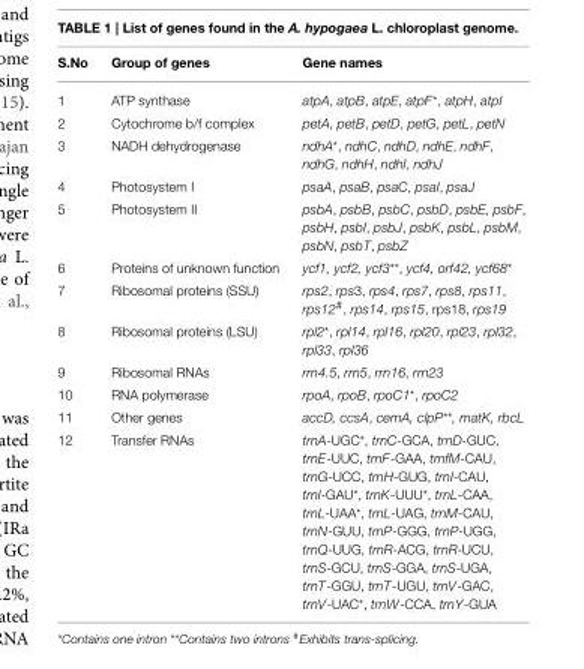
<table><thead><tr><td>S.No</td><td>Group of genes</td><td>Gene names</td></tr></thead><tbody><tr><td>1</td><td>ATP synthase</td><td>atpA, atpB, atpE, atpF*, atpH, atpI</td></tr><tr><td>2</td><td>Cytochrome b/f complex</td><td>petA, petB, petD, petG, petL, petN</td></tr><tr><td>3</td><td>NADH dehydrogenase</td><td>ndhA*, ndhC, ndhD, ndhE, ndhF, ndhG, ndhH, ndhI, ndhJ</td></tr><tr><td>4</td><td>Photosystem I</td><td>psaA, psaB, psaC, psaI, psaJ</td></tr><tr><td>5</td><td>Photosystem II</td><td>psbA, psbB, psbC, psbD, psbE, psbF, psbH, psbI, psbJ, psbK, psbL, psbM, psbN, psbT, psbZ</td></tr><tr><td>6</td><td>Proteins of unknown function</td><td>ycf1, ycf2, ycf3**, ycf4, orf42, ycf68*</td></tr><tr><td>7</td><td>Ribosomal proteins (SSU)</td><td>rps2, rps3, rps4, rps7, rps8, rps11, rps12<sup>#</sup>, rps14, rps15, rps18, rps19</td></tr><tr><td>8</td><td>Ribosomal proteins (LSU)</td><td>rpl2*, rpl14, rpl16, rpl20, rpl23, rpl32, rpl33, rpl36</td></tr><tr><td>9</td><td>Ribosomal RNAs</td><td>rrn4.5, rrn5, rrn16, rrn23</td></tr><tr><td>10</td><td>RNA polymerase</td><td>rpoA, rpoB, rpoC1*, rpoC2</td></tr><tr><td>11</td><td>Other genes</td><td>accD, ccsA, cemA, clpP**, matK, rbcL</td></tr><tr><td>12</td><td>Transfer RNAs</td><td>trnA-UGC*, trnC-GCA, trnD-GUC, trnE-UUC, trnF-GAA, trnfM-CAU, trnG-UCC, trnH-GUG, trnI-CAU, trnI-GAU*, trnK-UUU*, trnL-CAA, trnL-UAA*, trnL-UAG, trnM-CAU, trnN-GUU, trnP-GGG, trnP-UGG, trnQ-UUG, trnR-ACG, trnR-UCU, trnS-GCU, trnS-GGA, trnS-UGA, trnT-GGU, trnT-UGU, trnV-GAC, trnV-UAC*, trnW-CCA, trnY-GUA</td></tr></tbody></table>